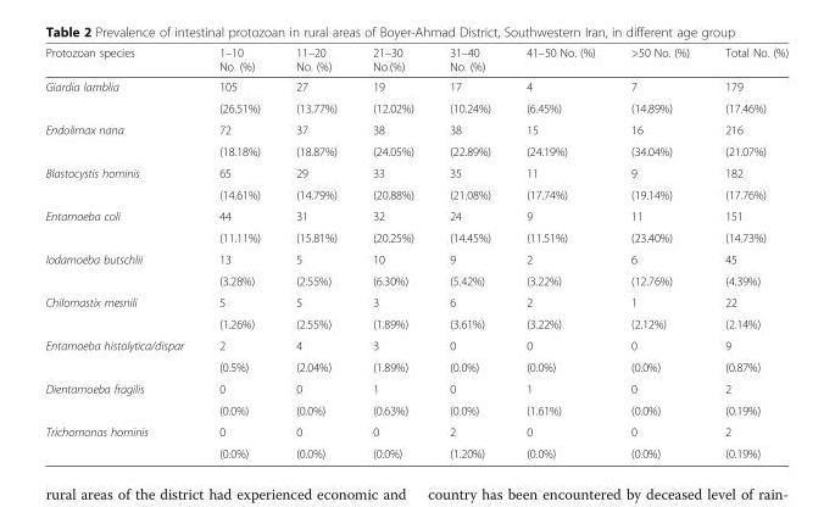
<table><thead><tr><td>Protozoan species</td><td>1–10 No. (%)</td><td>11–20 No. (%)</td><td>21–30 No.(%)</td><td>31–40 No. (%)</td><td>41–50 No. (%)</td><td>&gt;50 No. (%)</td><td>Total No. (%)</td></tr></thead><tbody><tr><td rowspan="2">Giardia lamblia</td><td>105</td><td>27</td><td>19</td><td>17</td><td>4</td><td>7</td><td>179</td></tr><tr><td>(26.51%)</td><td>(13.77%)</td><td>(12.02%)</td><td>(10.24%)</td><td>(6.45%)</td><td>(14.89%)</td><td>(17.46%)</td></tr><tr><td rowspan="2">Endolimax nana</td><td>72</td><td>37</td><td>38</td><td>38</td><td>15</td><td>16</td><td>216</td></tr><tr><td>(18.18%)</td><td>(18.87%)</td><td>(24.05%)</td><td>(22.89%)</td><td>(24.19%)</td><td>(34.04%)</td><td>(21.07%)</td></tr><tr><td rowspan="2">Blastocystis hominis</td><td>65</td><td>29</td><td>33</td><td>35</td><td>11</td><td>9</td><td>182</td></tr><tr><td>(14.61%)</td><td>(14.79%)</td><td>(20.88%)</td><td>(21.08%)</td><td>(17.74%)</td><td>(19.14%)</td><td>(17.76%)</td></tr><tr><td rowspan="2">Entamoeba coli</td><td>44</td><td>31</td><td>32</td><td>24</td><td>9</td><td>11</td><td>151</td></tr><tr><td>(11.11%)</td><td>(15.81%)</td><td>(20.25%)</td><td>(14.45%)</td><td>(11.51%)</td><td>(23.40%)</td><td>(14.73%)</td></tr><tr><td rowspan="2">Iodamoeba butschlii</td><td>13</td><td>5</td><td>10</td><td>9</td><td>2</td><td>6</td><td>45</td></tr><tr><td>(3.28%)</td><td>(2.55%)</td><td>(6.30%)</td><td>(5.42%)</td><td>(3.22%)</td><td>(12.76%)</td><td>(4.39%)</td></tr><tr><td rowspan="2">Chilomastix mesnili</td><td>5</td><td>5</td><td>3</td><td>6</td><td>2</td><td>1</td><td>22</td></tr><tr><td>(1.26%)</td><td>(2.55%)</td><td>(1.89%)</td><td>(3.61%)</td><td>(3.22%)</td><td>(2.12%)</td><td>(2.14%)</td></tr><tr><td rowspan="2">Entamoeba histolytica/dispar</td><td>2</td><td>4</td><td>3</td><td>0</td><td>0</td><td>0</td><td>9</td></tr><tr><td>(0.5%)</td><td>(2.04%)</td><td>(1.89%)</td><td>(0.0%)</td><td>(0.0%)</td><td>(0.0%)</td><td>(0.87%)</td></tr><tr><td rowspan="2">Dientamoeba fragilis</td><td>0</td><td>0</td><td>1</td><td>0</td><td>1</td><td>0</td><td>2</td></tr><tr><td>(0.0%)</td><td>(0.0%)</td><td>(0.63%)</td><td>(0.0%)</td><td>(1.61%)</td><td>(0.0%)</td><td>(0.19%)</td></tr><tr><td rowspan="2">Trichomonas hominis</td><td>0</td><td>0</td><td>0</td><td>2</td><td>0</td><td>0</td><td>2</td></tr><tr><td>(0.0%)</td><td>(0.0%)</td><td>(0.0%)</td><td>(1.20%)</td><td>(0.0%)</td><td>(0.0%)</td><td>(0.19%)</td></tr></tbody></table>